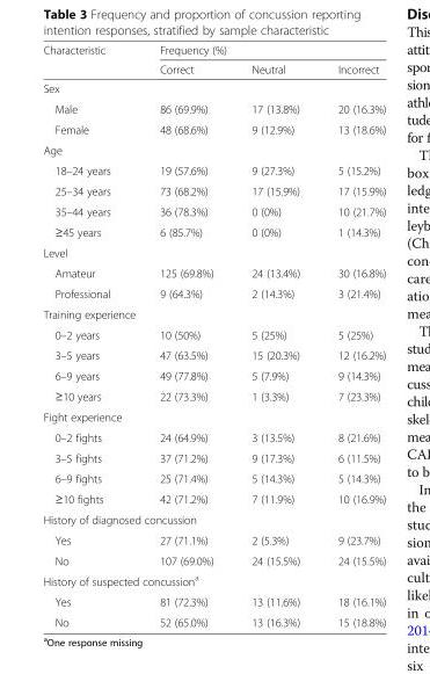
<table><thead><tr><td rowspan="2">Characteristic</td><td colspan="3">Frequency (%)</td></tr><tr><td>Correct</td><td>Neutral</td><td>Incorrect</td></tr></thead><tbody><tr><td colspan="4">Sex</td></tr><tr><td>Male</td><td>86 (69.9%)</td><td>17 (13.8%)</td><td>20 (16.3%)</td></tr><tr><td>Female</td><td>48 (68.6%)</td><td>9 (12.9%)</td><td>13 (18.6%)</td></tr><tr><td colspan="4">Age</td></tr><tr><td>18–24 years</td><td>19 (57.6%)</td><td>9 (27.3%)</td><td>5 (15.2%)</td></tr><tr><td>25–34 years</td><td>73 (68.2%)</td><td>17 (15.9%)</td><td>17 (15.9%)</td></tr><tr><td>35–44 years</td><td>36 (78.3%)</td><td>0 (0%)</td><td>10 (21.7%)</td></tr><tr><td>≥45 years</td><td>6 (85.7%)</td><td>0 (0%)</td><td>1 (14.3%)</td></tr><tr><td colspan="4">Level</td></tr><tr><td>Amateur</td><td>125 (69.8%)</td><td>24 (13.4%)</td><td>30 (16.8%)</td></tr><tr><td>Professional</td><td>9 (64.3%)</td><td>2 (14.3%)</td><td>3 (21.4%)</td></tr><tr><td colspan="4">Training experience</td></tr><tr><td>0–2 years</td><td>10 (50%)</td><td>5 (25%)</td><td>5 (25%)</td></tr><tr><td>3–5 years</td><td>47 (63.5%)</td><td>15 (20.3%)</td><td>12 (16.2%)</td></tr><tr><td>6–9 years</td><td>49 (77.8%)</td><td>5 (7.9%)</td><td>9 (14.3%)</td></tr><tr><td>≥10 years</td><td>22 (73.3%)</td><td>1 (3.3%)</td><td>7 (23.3%)</td></tr><tr><td colspan="4">Fight experience</td></tr><tr><td>0–2 fights</td><td>24 (64.9%)</td><td>3 (13.5%)</td><td>8 (21.6%)</td></tr><tr><td>3–5 fights</td><td>37 (71.2%)</td><td>9 (17.3%)</td><td>6 (11.5%)</td></tr><tr><td>6–9 fights</td><td>25 (71.4%)</td><td>5 (14.3%)</td><td>5 (14.3%)</td></tr><tr><td>≥10 fights</td><td>42 (71.2%)</td><td>7 (11.9%)</td><td>10 (16.9%)</td></tr><tr><td colspan="4">History of diagnosed concussion</td></tr><tr><td>Yes</td><td>27 (71.1%)</td><td>2 (5.3%)</td><td>9 (23.7%)</td></tr><tr><td>No</td><td>107 (69.0%)</td><td>24 (15.5%)</td><td>24 (15.5%)</td></tr><tr><td colspan="4">History of suspected concussion<sup>a</sup></td></tr><tr><td>Yes</td><td>81 (72.3%)</td><td>13 (11.6%)</td><td>18 (16.1%)</td></tr><tr><td>No</td><td>52 (65.0%)</td><td>13 (16.3%)</td><td>15 (18.8%)</td></tr></tbody></table>